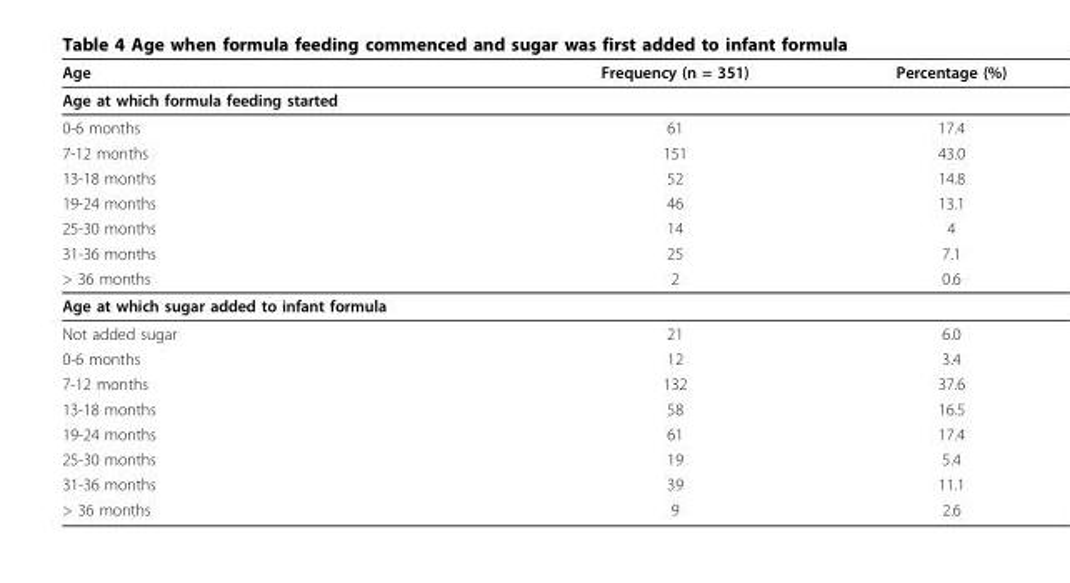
<table><thead><tr><td>Age</td><td>Frequency (n = 351)</td><td>Percentage (%)</td></tr></thead><tbody><tr><td colspan="3">Age at which formula feeding started</td></tr><tr><td>0-6 months</td><td>61</td><td>17.4</td></tr><tr><td>7-12 months</td><td>151</td><td>43.0</td></tr><tr><td>13-18 months</td><td>52</td><td>14.8</td></tr><tr><td>19-24 months</td><td>46</td><td>13.1</td></tr><tr><td>25-30 months</td><td>14</td><td>4</td></tr><tr><td>31-36 months</td><td>25</td><td>7.1</td></tr><tr><td>&gt; 36 months</td><td>2</td><td>0.6</td></tr><tr><td colspan="3">Age at which sugar added to infant formula</td></tr><tr><td>Not added sugar</td><td>21</td><td>6.0</td></tr><tr><td>0-6 months</td><td>12</td><td>3.4</td></tr><tr><td>7-12 months</td><td>132</td><td>37.6</td></tr><tr><td>13-18 months</td><td>58</td><td>16.5</td></tr><tr><td>19-24 months</td><td>61</td><td>17.4</td></tr><tr><td>25-30 months</td><td>19</td><td>5.4</td></tr><tr><td>31-36 months</td><td>39</td><td>11.1</td></tr><tr><td>&gt; 36 months</td><td>9</td><td>2.6</td></tr></tbody></table>